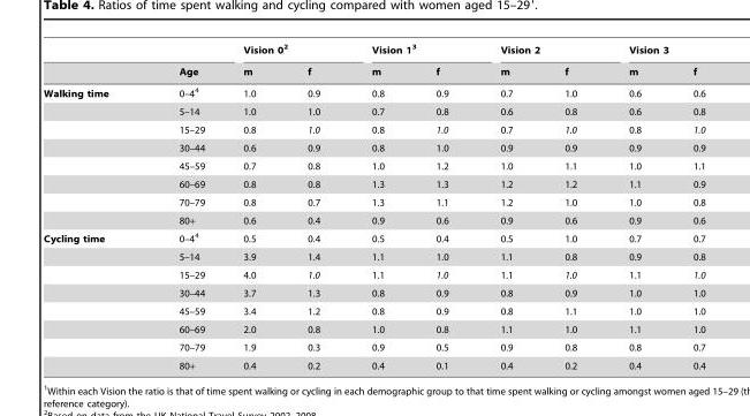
<table><thead><tr><td rowspan="2"></td><td rowspan="2">Age</td><td colspan="2">Vision 0<sup>2</sup></td><td colspan="2">Vision 1<sup>3</sup></td><td colspan="2">Vision 2</td><td colspan="2">Vision 3</td></tr><tr><td>m</td><td>f</td><td>m</td><td>f</td><td>m</td><td>f</td><td>m</td><td>f</td></tr></thead><tbody><tr><td rowspan="8">Walking time</td><td>0–4<sup>4</sup></td><td>1.0</td><td>0.9</td><td>0.8</td><td>0.9</td><td>0.7</td><td>1.0</td><td>0.6</td><td>0.6</td></tr><tr><td>5–14</td><td>1.0</td><td>1.0</td><td>0.7</td><td>0.8</td><td>0.6</td><td>0.8</td><td>0.6</td><td>0.8</td></tr><tr><td>15–29</td><td>0.8</td><td>1.0</td><td>0.8</td><td>1.0</td><td>0.7</td><td>1.0</td><td>0.8</td><td>1.0</td></tr><tr><td>30–44</td><td>0.6</td><td>0.9</td><td>0.8</td><td>1.0</td><td>0.9</td><td>0.9</td><td>0.9</td><td>0.9</td></tr><tr><td>45–59</td><td>0.7</td><td>0.8</td><td>1.0</td><td>1.2</td><td>1.0</td><td>1.1</td><td>1.0</td><td>1.1</td></tr><tr><td>60–69</td><td>0.8</td><td>0.8</td><td>1.3</td><td>1.3</td><td>1.2</td><td>1.2</td><td>1.1</td><td>0.9</td></tr><tr><td>70–79</td><td>0.8</td><td>0.7</td><td>1.3</td><td>1.1</td><td>1.2</td><td>1.0</td><td>1.0</td><td>0.8</td></tr><tr><td>80+</td><td>0.6</td><td>0.4</td><td>0.9</td><td>0.6</td><td>0.9</td><td>0.6</td><td>0.9</td><td>0.6</td></tr><tr><td rowspan="8">Cycling time</td><td>0–4<sup>4</sup></td><td>0.5</td><td>0.4</td><td>0.5</td><td>0.4</td><td>0.5</td><td>1.0</td><td>0.7</td><td>0.7</td></tr><tr><td>5–14</td><td>3.9</td><td>1.4</td><td>1.1</td><td>1.0</td><td>1.1</td><td>0.8</td><td>0.9</td><td>0.8</td></tr><tr><td>15–29</td><td>4.0</td><td>1.0</td><td>1.1</td><td>1.0</td><td>1.1</td><td>1.0</td><td>1.1</td><td>1.0</td></tr><tr><td>30–44</td><td>3.7</td><td>1.3</td><td>0.8</td><td>0.9</td><td>0.8</td><td>0.9</td><td>1.0</td><td>1.0</td></tr><tr><td>45–59</td><td>3.4</td><td>1.2</td><td>0.8</td><td>0.9</td><td>0.8</td><td>1.1</td><td>1.0</td><td>1.0</td></tr><tr><td>60–69</td><td>2.0</td><td>0.8</td><td>1.0</td><td>0.8</td><td>1.1</td><td>1.0</td><td>1.1</td><td>1.0</td></tr><tr><td>70–79</td><td>1.9</td><td>0.3</td><td>0.9</td><td>0.5</td><td>0.9</td><td>0.8</td><td>0.8</td><td>0.7</td></tr><tr><td>80+</td><td>0.4</td><td>0.2</td><td>0.4</td><td>0.1</td><td>0.4</td><td>0.2</td><td>0.4</td><td>0.4</td></tr></tbody></table>